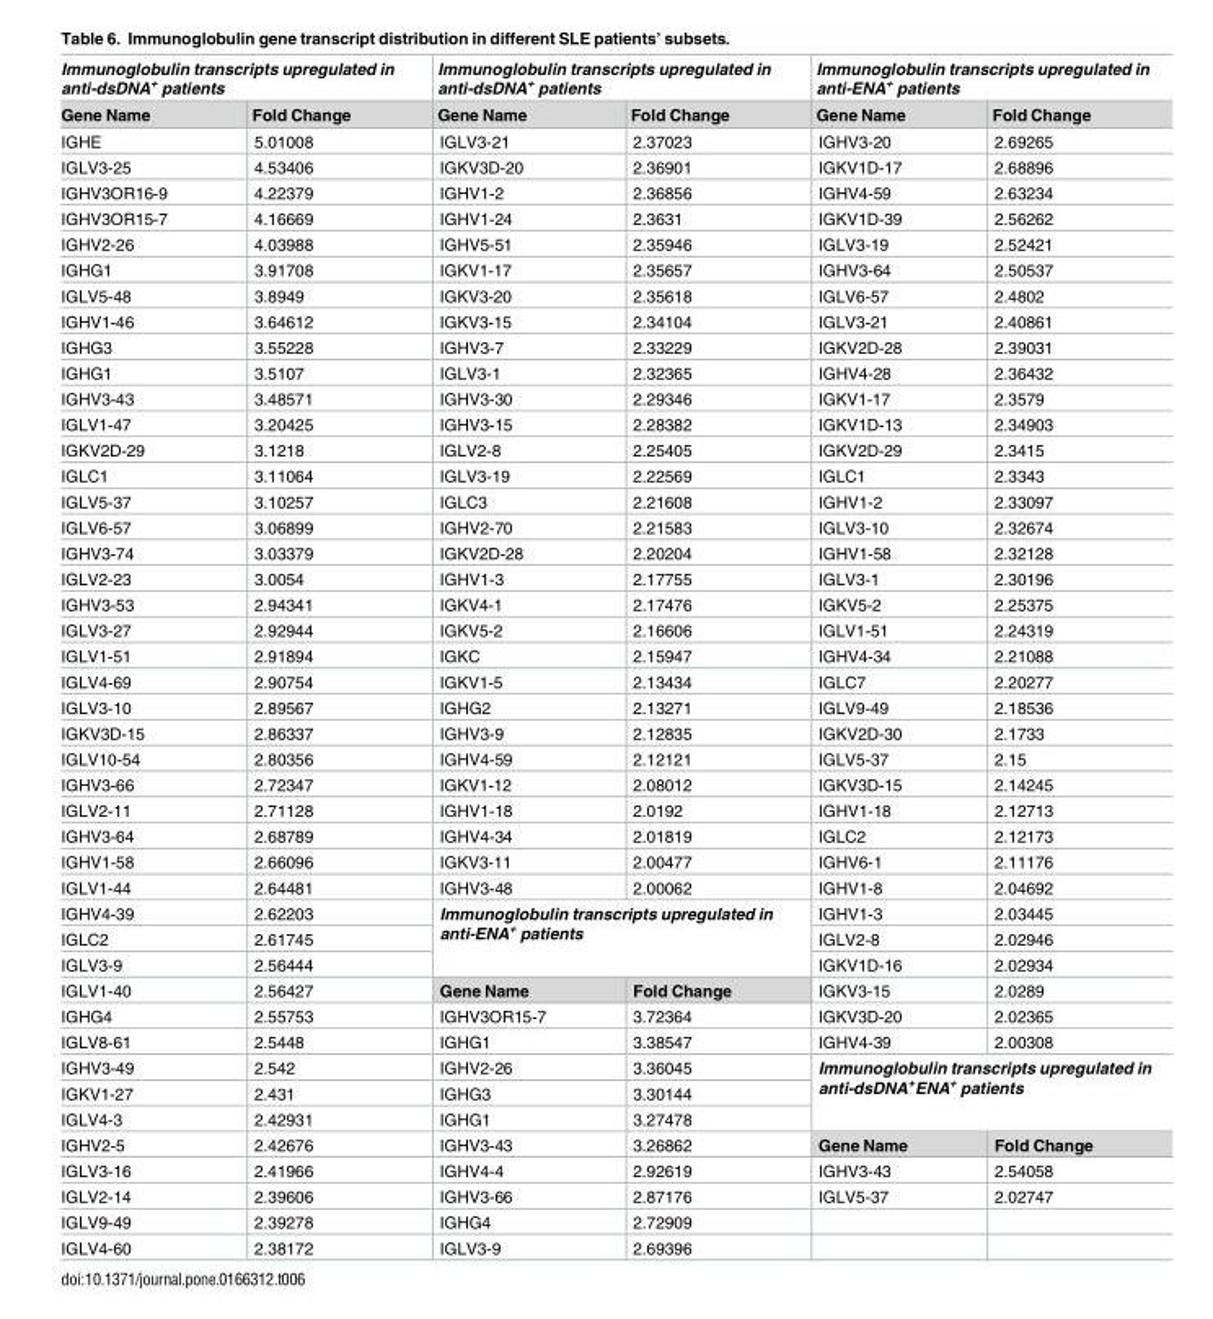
<table><thead><tr><td colspan="2">Immunoglobulin transcripts upregulated in anti-dsDNA<sup>+</sup> patients</td><td colspan="2">Immunoglobulin transcripts upregulated in anti-dsDNA<sup>+</sup> patients</td><td colspan="2">Immunoglobulin transcripts upregulated in anti-ENA<sup>+</sup> patients</td></tr><tr><td>Gene Name</td><td>Fold Change</td><td>Gene Name</td><td>Fold Change</td><td>Gene Name</td><td>Fold Change</td></tr></thead><tbody><tr><td>IGHE</td><td>5.01008</td><td>IGLV3-21</td><td>2.37023</td><td>IGHV3-20</td><td>2.69265</td></tr><tr><td>IGLV3-25</td><td>4.53406</td><td>IGKV3D-20</td><td>2.36901</td><td>IGKV1D-17</td><td>2.68896</td></tr><tr><td>IGHV3OR16-9</td><td>4.22379</td><td>IGHV1-2</td><td>2.36856</td><td>IGHV4-59</td><td>2.63234</td></tr><tr><td>IGHV3OR15-7</td><td>4.16669</td><td>IGHV1-24</td><td>2.3631</td><td>IGKV1D-39</td><td>2.56262</td></tr><tr><td>IGHV2-26</td><td>4.03988</td><td>IGHV5-51</td><td>2.35946</td><td>IGLV3-19</td><td>2.52421</td></tr><tr><td>IGHG1</td><td>3.91708</td><td>IGKV1-17</td><td>2.35657</td><td>IGHV3-64</td><td>2.50537</td></tr><tr><td>IGLV5-48</td><td>3.8949</td><td>IGKV3-20</td><td>2.35618</td><td>IGLV6-57</td><td>2.4802</td></tr><tr><td>IGHV1-46</td><td>3.64612</td><td>IGKV3-15</td><td>2.34104</td><td>IGLV3-21</td><td>2.40861</td></tr><tr><td>IGHG3</td><td>3.55228</td><td>IGHV3-7</td><td>2.33229</td><td>IGKV2D-28</td><td>2.39031</td></tr><tr><td>IGHG1</td><td>3.5107</td><td>IGLV3-1</td><td>2.32365</td><td>IGHV4-28</td><td>2.36432</td></tr><tr><td>IGHV3-43</td><td>3.48571</td><td>IGHV3-30</td><td>2.29346</td><td>IGKV1-17</td><td>2.3579</td></tr><tr><td>IGLV1-47</td><td>3.20425</td><td>IGHV3-15</td><td>2.28382</td><td>IGKV1D-13</td><td>2.34903</td></tr><tr><td>IGKV2D-29</td><td>3.1218</td><td>IGLV2-8</td><td>2.25405</td><td>IGKV2D-29</td><td>2.3415</td></tr><tr><td>IGLC1</td><td>3.11064</td><td>IGLV3-19</td><td>2.22569</td><td>IGLC1</td><td>2.3343</td></tr><tr><td>IGLV5-37</td><td>3.10257</td><td>IGLC3</td><td>2.21608</td><td>IGHV1-2</td><td>2.33097</td></tr><tr><td>IGLV6-57</td><td>3.06899</td><td>IGHV2-70</td><td>2.21583</td><td>IGLV3-10</td><td>2.32674</td></tr><tr><td>IGHV3-74</td><td>3.03379</td><td>IGKV2D-28</td><td>2.20204</td><td>IGHV1-58</td><td>2.32128</td></tr><tr><td>IGLV2-23</td><td>3.0054</td><td>IGHV1-3</td><td>2.17755</td><td>IGLV3-1</td><td>2.30196</td></tr><tr><td>IGHV3-53</td><td>2.94341</td><td>IGKV4-1</td><td>2.17476</td><td>IGKV5-2</td><td>2.25375</td></tr><tr><td>IGLV3-27</td><td>2.92944</td><td>IGKV5-2</td><td>2.16606</td><td>IGLV1-51</td><td>2.24319</td></tr><tr><td>IGLV1-51</td><td>2.91894</td><td>IGKC</td><td>2.15947</td><td>IGHV4-34</td><td>2.21088</td></tr><tr><td>IGLV4-69</td><td>2.90754</td><td>IGKV1-5</td><td>2.13434</td><td>IGLC7</td><td>2.20277</td></tr><tr><td>IGLV3-10</td><td>2.89567</td><td>IGHG2</td><td>2.13271</td><td>IGLV9-49</td><td>2.18536</td></tr><tr><td>IGKV3D-15</td><td>2.86337</td><td>IGHV3-9</td><td>2.12835</td><td>IGKV2D-30</td><td>2.1733</td></tr><tr><td>IGLV10-54</td><td>2.80356</td><td>IGHV4-59</td><td>2.12121</td><td>IGLV5-37</td><td>2.15</td></tr><tr><td>IGHV3-66</td><td>2.72347</td><td>IGKV1-12</td><td>2.08012</td><td>IGKV3D-15</td><td>2.14245</td></tr><tr><td>IGLV2-11</td><td>2.71128</td><td>IGHV1-18</td><td>2.0192</td><td>IGHV1-18</td><td>2.12713</td></tr><tr><td>IGHV3-64</td><td>2.68789</td><td>IGHV4-34</td><td>2.01819</td><td>IGLC2</td><td>2.12173</td></tr><tr><td>IGHV1-58</td><td>2.66096</td><td>IGKV3-11</td><td>2.00477</td><td>IGHV6-1</td><td>2.11176</td></tr><tr><td>IGLV1-44</td><td>2.64481</td><td>IGHV3-48</td><td>2.00062</td><td>IGHV1-8</td><td>2.04692</td></tr><tr><td>IGHV4-39</td><td>2.62203</td><td rowspan="3" colspan="2">Immunoglobulin transcripts upregulated in anti-ENA<sup>+</sup> patients</td><td>IGHV1-3</td><td>2.03445</td></tr><tr><td>IGLC2</td><td>2.61745</td><td>IGLV2-8</td><td>2.02946</td></tr><tr><td>IGLV3-9</td><td>2.56444</td><td>IGKV1D-16</td><td>2.02934</td></tr><tr><td>IGLV1-40</td><td>2.56427</td><td>Gene Name</td><td>Fold Change</td><td>IGKV3-15</td><td>2.0289</td></tr><tr><td>IGHG4</td><td>2.55753</td><td>IGHV3OR15-7</td><td>3.72364</td><td>IGKV3D-20</td><td>2.02365</td></tr><tr><td>IGLV8-61</td><td>2.5448</td><td>IGHG1</td><td>3.38547</td><td>IGHV4-39</td><td>2.00308</td></tr><tr><td>IGHV3-49</td><td>2.542</td><td>IGHV2-26</td><td>3.36045</td><td rowspan="3" colspan="2">Immunoglobulin transcripts upregulated in anti-dsDNA<sup>+</sup>ENA<sup>+</sup> patients</td></tr><tr><td>IGKV1-27</td><td>2.431</td><td>IGHG3</td><td>3.30144</td></tr><tr><td>IGLV4-3</td><td>2.42931</td><td>IGHG1</td><td>3.27478</td></tr><tr><td>IGHV2-5</td><td>2.42676</td><td>IGHV3-43</td><td>3.26862</td><td>Gene Name</td><td>Fold Change</td></tr><tr><td>IGLV3-16</td><td>2.41966</td><td>IGHV4-4</td><td>2.92619</td><td>IGHV3-43</td><td>2.54058</td></tr><tr><td>IGLV2-14</td><td>2.39606</td><td>IGHV3-66</td><td>2.87176</td><td>IGLV5-37</td><td>2.02747</td></tr><tr><td>IGLV9-49</td><td>2.39278</td><td>IGHG4</td><td>2.72909</td><td></td><td></td></tr><tr><td>IGLV4-60</td><td>2.38172</td><td>IGLV3-9</td><td>2.69396</td><td></td><td></td></tr></tbody></table>